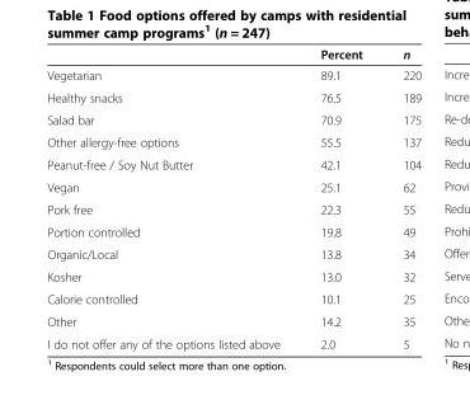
<table><thead><tr><td></td><td>Percent</td><td>n</td></tr></thead><tbody><tr><td>Vegetarian</td><td>89.1</td><td>220</td></tr><tr><td>Healthy snacks</td><td>76.5</td><td>189</td></tr><tr><td>Salad bar</td><td>70.9</td><td>175</td></tr><tr><td>Other allergy-free options</td><td>55.5</td><td>137</td></tr><tr><td>Peanut-free / Soy Nut Butter</td><td>42.1</td><td>104</td></tr><tr><td>Vegan</td><td>25.1</td><td>62</td></tr><tr><td>Pork free</td><td>22.3</td><td>55</td></tr><tr><td>Portion controlled</td><td>19.8</td><td>49</td></tr><tr><td>Organic/Local</td><td>13.8</td><td>34</td></tr><tr><td>Kosher</td><td>13.0</td><td>32</td></tr><tr><td>Calorie controlled</td><td>10.1</td><td>25</td></tr><tr><td>Other</td><td>14.2</td><td>35</td></tr><tr><td>I do not offer any of the options listed above</td><td>2.0</td><td>5</td></tr></tbody></table>